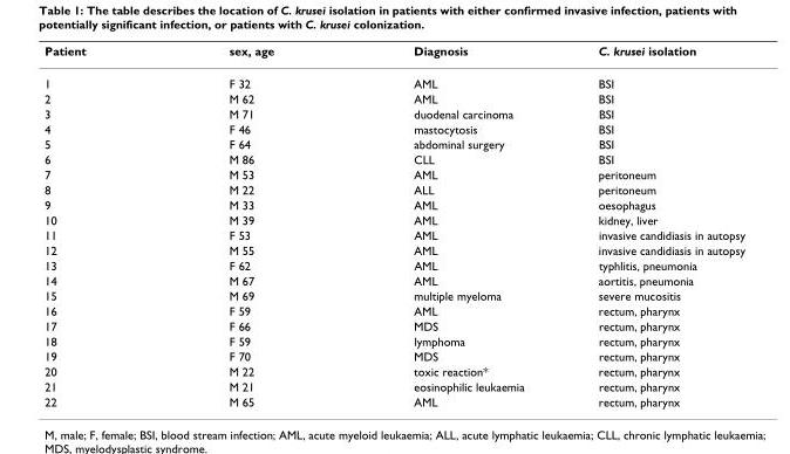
<table><thead><tr><td>Patient</td><td>sex, age</td><td>Diagnosis</td><td>C. krusei isolation</td></tr></thead><tbody><tr><td>1</td><td>F 32</td><td>AML</td><td>BSI</td></tr><tr><td>2</td><td>M 62</td><td>AML</td><td>BSI</td></tr><tr><td>3</td><td>M 71</td><td>duodenal carcinoma</td><td>BSI</td></tr><tr><td>4</td><td>F 46</td><td>mastocytosis</td><td>BSI</td></tr><tr><td>5</td><td>F 64</td><td>abdominal surgery</td><td>BSI</td></tr><tr><td>6</td><td>M 86</td><td>CLL</td><td>BSI</td></tr><tr><td>7</td><td>M 53</td><td>AML</td><td>peritoneum</td></tr><tr><td>8</td><td>M 22</td><td>ALL</td><td>peritoneum</td></tr><tr><td>9</td><td>M 33</td><td>AML</td><td>oesophagus</td></tr><tr><td>10</td><td>M 39</td><td>AML</td><td>kidney, liver</td></tr><tr><td>11</td><td>F 53</td><td>AML</td><td>invasive candidiasis in autopsy</td></tr><tr><td>12</td><td>M 55</td><td>AML</td><td>invasive candidiasis in autopsy</td></tr><tr><td>13</td><td>F 62</td><td>AML</td><td>typhlitis, pneumonia</td></tr><tr><td>14</td><td>M 67</td><td>AML</td><td>aortitis, pneumonia</td></tr><tr><td>15</td><td>M 69</td><td>multiple myeloma</td><td>severe mucositis</td></tr><tr><td>16</td><td>F 59</td><td>AML</td><td>rectum, pharynx</td></tr><tr><td>17</td><td>F 66</td><td>MDS</td><td>rectum, pharynx</td></tr><tr><td>18</td><td>F 59</td><td>lymphoma</td><td>rectum, pharynx</td></tr><tr><td>19</td><td>F 70</td><td>MDS</td><td>rectum, pharynx</td></tr><tr><td>20</td><td>M 22</td><td>toxic reaction*</td><td>rectum, pharynx</td></tr><tr><td>21</td><td>M 21</td><td>eosinophilic leukaemia</td><td>rectum, pharynx</td></tr><tr><td>22</td><td>M 65</td><td>AML</td><td>rectum, pharynx</td></tr></tbody></table>